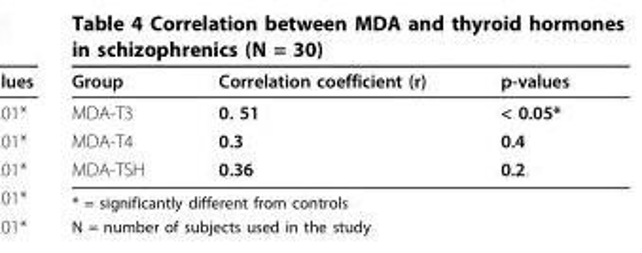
<table><thead><tr><td>Group</td><td>Correlation coefficient (r)</td><td>p-values</td></tr></thead><tbody><tr><td>MDA-T3</td><td>0. 51</td><td>&lt; 0.05*</td></tr><tr><td>MDA-T4</td><td>0.3</td><td>0.4</td></tr><tr><td>MDA-TSH</td><td>0.36</td><td>0.2.</td></tr></tbody></table>